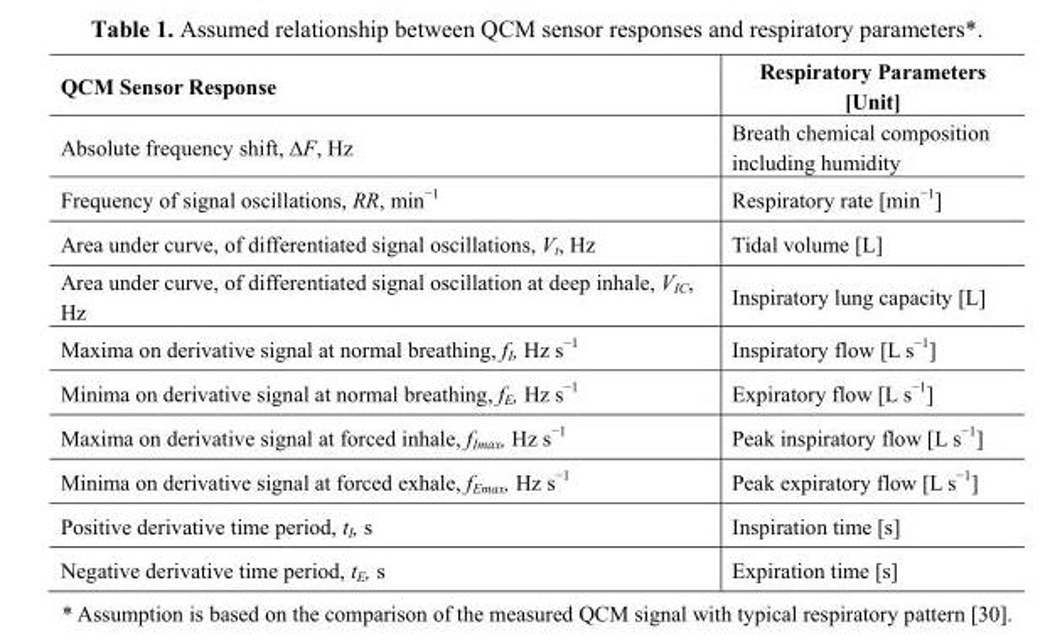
<table><thead><tr><td>QCM Sensor Response</td><td>Respiratory Parameters [Unit]</td></tr></thead><tbody><tr><td>Absolute frequency shift, ΔF, Hz</td><td>Breath chemical composition including humidity</td></tr><tr><td>Frequency of signal oscillations, RR, min<sup>−1</sup></td><td>Respiratory rate [min<sup>−1</sup>]</td></tr><tr><td>Area under curve, of differentiated signal oscillations, V<sub>t</sub>, Hz</td><td>Tidal volume [L]</td></tr><tr><td>Area under curve, of differentiated signal oscillation at deep inhale, V<sub>IC</sub>, Hz</td><td>Inspiratory lung capacity [L]</td></tr><tr><td>Maxima on derivative signal at normal breathing, f<sub>I</sub>, Hz s<sup>−1</sup></td><td>Inspiratory flow [L s<sup>−1</sup>]</td></tr><tr><td>Minima on derivative signal at normal breathing, f<sub>E</sub>, Hz s<sup>−1</sup></td><td>Expiratory flow [L s<sup>−1</sup>]</td></tr><tr><td>Maxima on derivative signal at forced inhale, f<sub>Imax</sub>, Hz s<sup>−1</sup></td><td>Peak inspiratory flow [L s<sup>−1</sup>]</td></tr><tr><td>Minima on derivative signal at forced exhale, f<sub>Emax</sub>, Hz s<sup>−1</sup></td><td>Peak expiratory flow [L s<sup>−1</sup>]</td></tr><tr><td>Positive derivative time period, t<sub>I</sub>, s</td><td>Inspiration time [s]</td></tr><tr><td>Negative derivative time period, t<sub>E</sub>, s</td><td>Expiration time [s]</td></tr></tbody></table>